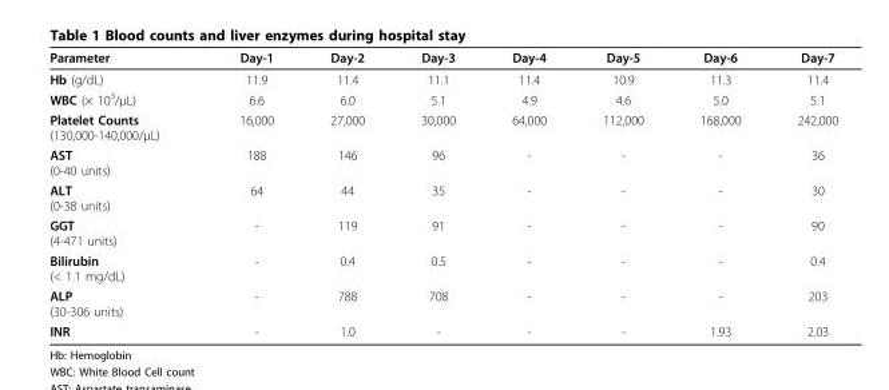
<table><thead><tr><td>Parameter</td><td>Day-1</td><td>Day-2</td><td>Day-3</td><td>Day-4</td><td>Day-5</td><td>Day-6</td><td>Day-7</td></tr></thead><tbody><tr><td>Hb (g/dL)</td><td>11.9</td><td>11.4</td><td>11.1</td><td>11.4</td><td>10.9</td><td>11.3</td><td>11.4</td></tr><tr><td>WBC (× 10<sup>3</sup>/μL)</td><td>6.6</td><td>6.0</td><td>5.1</td><td>4.9</td><td>4.6</td><td>5.0</td><td>5.1</td></tr><tr><td>Platelet Counts (130,000-140,000/μL)</td><td>16,000</td><td>27,000</td><td>30,000</td><td>64,000</td><td>112,000</td><td>168,000</td><td>242,000</td></tr><tr><td>AST (0-40 units)</td><td>188</td><td>146</td><td>96</td><td>-</td><td>-</td><td>-</td><td>36</td></tr><tr><td>ALT (0-38 units)</td><td>64</td><td>44</td><td>35</td><td>-</td><td>-</td><td>-</td><td>30</td></tr><tr><td>GGT (4-471 units)</td><td>-</td><td>119</td><td>91</td><td>-</td><td>-</td><td>-</td><td>90</td></tr><tr><td>Bilirubin (&lt; 1.1 mg/dL)</td><td>-</td><td>0.4</td><td>0.5</td><td>-</td><td>-</td><td>-</td><td>0.4</td></tr><tr><td>ALP (30-306 units)</td><td>-</td><td>788</td><td>708</td><td>-</td><td>-</td><td>-</td><td>203</td></tr><tr><td>INR</td><td>-</td><td>1.0</td><td>-</td><td>-</td><td>-</td><td>1.93</td><td>2.03</td></tr></tbody></table>